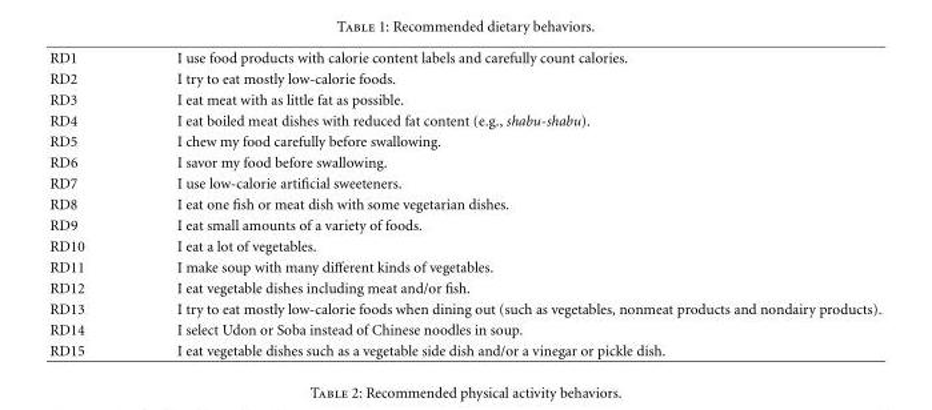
<table><tbody><tr><td>RD1</td><td>I use food products with calorie content labels and carefully count calories.</td></tr><tr><td>RD2</td><td>I try to eat mostly low-calorie foods.</td></tr><tr><td>RD3</td><td>I eat meat with as little fat as possible.</td></tr><tr><td>RD4</td><td>I eat boiled meat dishes with reduced fat content (e.g., shabu-shabu).</td></tr><tr><td>RD5</td><td>I chew my food carefully before swallowing.</td></tr><tr><td>RD6</td><td>I savor my food before swallowing.</td></tr><tr><td>RD7</td><td>I use low-calorie artificial sweeteners.</td></tr><tr><td>RD8</td><td>I eat one fish or meat dish with some vegetarian dishes.</td></tr><tr><td>RD9</td><td>I eat small amounts of a variety of foods.</td></tr><tr><td>RD10</td><td>I eat a lot of vegetables.</td></tr><tr><td>RD11</td><td>I make soup with many different kinds of vegetables.</td></tr><tr><td>RD12</td><td>I eat vegetable dishes including meat and/or fish.</td></tr><tr><td>RD13</td><td>I try to eat mostly low-calorie foods when dining out (such as vegetables, nonmeat products and nondairy products).</td></tr><tr><td>RD14</td><td>I select Udon or Soba instead of Chinese noodles in soup.</td></tr><tr><td>RD15</td><td>I eat vegetable dishes such as a vegetable side dish and/or a vinegar or pickle dish.</td></tr></tbody></table>